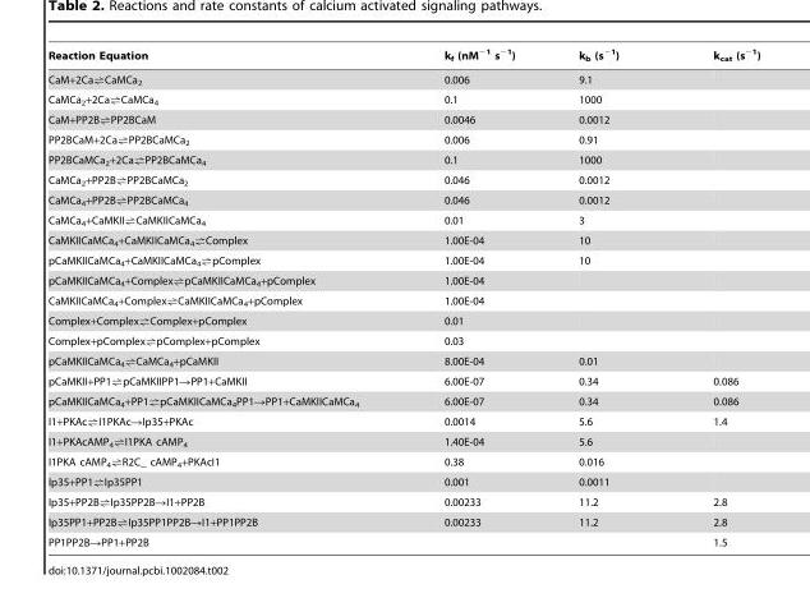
<table><thead><tr><td>Reaction Equation</td><td>k<sub>f</sub> (nM<sup>−1</sup> s<sup>−1</sup>)</td><td>k<sub>b</sub> (s<sup>−1</sup>)</td><td>k<sub>cat</sub> (s<sup>−1</sup>)</td></tr></thead><tbody><tr><td>CaM+2Ca=CaMCa2</td><td>0.006</td><td>9.1</td><td></td></tr><tr><td>CaMCa2+2Ca=CaMCa4</td><td>0.1</td><td>1000</td><td></td></tr><tr><td>CaM+PP2B=PP2BCaM</td><td>0.0046</td><td>0.0012</td><td></td></tr><tr><td>PP2BCaM+2Ca=PP2BCaMCa2</td><td>0.006</td><td>0.91</td><td></td></tr><tr><td>PP2BCaMCa2+2Ca=PP2BCaMCa4</td><td>0.1</td><td>1000</td><td></td></tr><tr><td>CaMCa2+PP2B=PP2BCaMCa2</td><td>0.046</td><td>0.0012</td><td></td></tr><tr><td>CaMCa4+PP2B=PP2BCaMCa4</td><td>0.046</td><td>0.0012</td><td></td></tr><tr><td>CaMCa4+CaMKII=CaMKIICaMCa4</td><td>0.01</td><td>3</td><td></td></tr><tr><td>CaMKIICaMCa4+CaMKIICaMCa4=Complex</td><td>1.00E-04</td><td>10</td><td></td></tr><tr><td>pCaMKIICaMCa4+CaMKIICaMCa4=pComplex</td><td>1.00E-04</td><td>10</td><td></td></tr><tr><td>pCaMKIICaMCa4+Complex=pCaMKIICaMCa4+pComplex</td><td>1.00E-04</td><td></td><td></td></tr><tr><td>CaMKIICaMCa4+Complex=CaMKIICaMCa4+pComplex</td><td>1.00E-04</td><td></td><td></td></tr><tr><td>Complex+Complex=Complex+pComplex</td><td>0.01</td><td></td><td></td></tr><tr><td>Complex+pComplex=pComplex+pComplex</td><td>0.03</td><td></td><td></td></tr><tr><td>pCaMKIICaMCa4=CaMCa4+pCaMKII</td><td>8.00E-04</td><td>0.01</td><td></td></tr><tr><td>pCaMKII+PP1=pCaMKIIPP1RPP1+CaMKII</td><td>6.00E-07</td><td>0.34</td><td>0.086</td></tr><tr><td>pCaMKIICaMCa4+PP1=pCaMKIICaMCa4PP1RPP1+CaMKIICaMCa4</td><td>6.00E-07</td><td>0.34</td><td>0.086</td></tr><tr><td>I1+PKAc=I1PKAcRIp35+PKAc</td><td>0.0014</td><td>5.6</td><td>1.4</td></tr><tr><td>I1+PKAcAMP4=I1PKA cAMP4</td><td>1.40E-04</td><td>5.6</td><td></td></tr><tr><td>I1PKA cAMP4=R2C_ cAMP4+PKAcI1</td><td>0.38</td><td>0.016</td><td></td></tr><tr><td>Ip35+PP1=Ip35PP1</td><td>0.001</td><td>0.0011</td><td></td></tr><tr><td>Ip35+PP2B=Ip35PP2BRI1+PP2B</td><td>0.00233</td><td>11.2</td><td>2.8</td></tr><tr><td>Ip35PP1+PP2B=Ip35PP1PP2BRI1+PP1PP2B</td><td>0.00233</td><td>11.2</td><td>2.8</td></tr><tr><td>PP1PP2B→PP1+PP2B</td><td></td><td></td><td>1.5</td></tr></tbody></table>